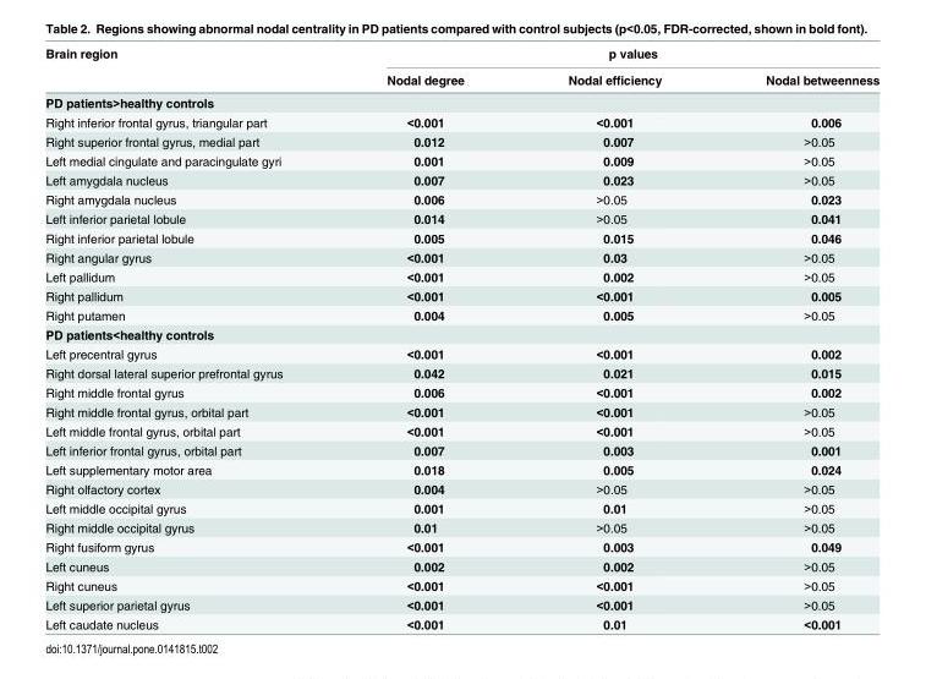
<table><thead><tr><td rowspan="2">Brain region</td><td colspan="3">p values</td></tr><tr><td>Nodal degree</td><td>Nodal efficiency</td><td>Nodal betweenness</td></tr></thead><tbody><tr><td colspan="4">PD patients&gt;healthy controls</td></tr><tr><td>Right inferior frontal gyrus, triangular part</td><td>&lt;0.001</td><td>&lt;0.001</td><td>0.006</td></tr><tr><td>Right superior frontal gyrus, medial part</td><td>0.012</td><td>0.007</td><td>&gt;0.05</td></tr><tr><td>Left medial cingulate and paracingulate gyri</td><td>0.001</td><td>0.009</td><td>&gt;0.05</td></tr><tr><td>Left amygdala nucleus</td><td>0.007</td><td>0.023</td><td>&gt;0.05</td></tr><tr><td>Right amygdala nucleus</td><td>0.006</td><td>&gt;0.05</td><td>0.023</td></tr><tr><td>Left inferior parietal lobule</td><td>0.014</td><td>&gt;0.05</td><td>0.041</td></tr><tr><td>Right inferior parietal lobule</td><td>0.005</td><td>0.015</td><td>0.046</td></tr><tr><td>Right angular gyrus</td><td>&lt;0.001</td><td>0.03</td><td>&gt;0.05</td></tr><tr><td>Left pallidum</td><td>&lt;0.001</td><td>0.002</td><td>&gt;0.05</td></tr><tr><td>Right pallidum</td><td>&lt;0.001</td><td>&lt;0.001</td><td>0.005</td></tr><tr><td>Right putamen</td><td>0.004</td><td>0.005</td><td>&gt;0.05</td></tr><tr><td colspan="4">PD patients&lt;healthy controls</td></tr><tr><td>Left precentral gyrus</td><td>&lt;0.001</td><td>&lt;0.001</td><td>0.002</td></tr><tr><td>Right dorsal lateral superior prefrontal gyrus</td><td>0.042</td><td>0.021</td><td>0.015</td></tr><tr><td>Right middle frontal gyrus</td><td>0.006</td><td>&lt;0.001</td><td>0.002</td></tr><tr><td>Right middle frontal gyrus, orbital part</td><td>&lt;0.001</td><td>&lt;0.001</td><td>&gt;0.05</td></tr><tr><td>Left middle frontal gyrus, orbital part</td><td>&lt;0.001</td><td>&lt;0.001</td><td>&gt;0.05</td></tr><tr><td>Left inferior frontal gyrus, orbital part</td><td>0.007</td><td>0.003</td><td>0.001</td></tr><tr><td>Left supplementary motor area</td><td>0.018</td><td>0.005</td><td>0.024</td></tr><tr><td>Right olfactory cortex</td><td>0.004</td><td>&gt;0.05</td><td>&gt;0.05</td></tr><tr><td>Left middle occipital gyrus</td><td>0.001</td><td>0.01</td><td>&gt;0.05</td></tr><tr><td>Right middle occipital gyrus</td><td>0.01</td><td>&gt;0.05</td><td>&gt;0.05</td></tr><tr><td>Right fusiform gyrus</td><td>&lt;0.001</td><td>0.003</td><td>0.049</td></tr><tr><td>Left cuneus</td><td>0.002</td><td>0.002</td><td>&gt;0.05</td></tr><tr><td>Right cuneus</td><td>&lt;0.001</td><td>&lt;0.001</td><td>&gt;0.05</td></tr><tr><td>Left superior parietal gyrus</td><td>&lt;0.001</td><td>&lt;0.001</td><td>&gt;0.05</td></tr><tr><td>Left caudate nucleus</td><td>&lt;0.001</td><td>0.01</td><td>&lt;0.001</td></tr></tbody></table>